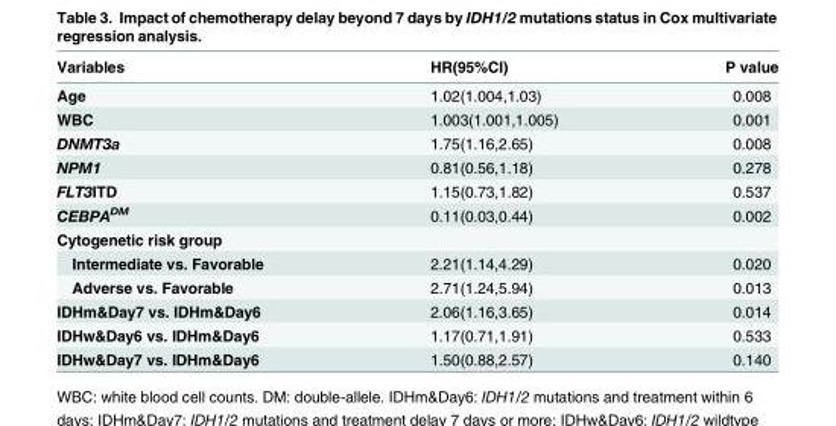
<table><thead><tr><td>Variables</td><td>HR(95%CI)</td><td>P value</td></tr></thead><tbody><tr><td>Age</td><td>1.02(1.004,1.03)</td><td>0.008</td></tr><tr><td>WBC</td><td>1.003(1.001,1.005)</td><td>0.001</td></tr><tr><td>DNMT3a</td><td>1.75(1.16,2.65)</td><td>0.008</td></tr><tr><td>NPM1</td><td>0.81(0.56,1.18)</td><td>0.278</td></tr><tr><td>FLT3ITD</td><td>1.15(0.73,1.82)</td><td>0.537</td></tr><tr><td>CEBPA<sup>DM</sup></td><td>0.11(0.03,0.44)</td><td>0.002</td></tr><tr><td colspan="3">Cytogenetic risk group</td></tr><tr><td>Intermediate vs. Favorable</td><td>2.21(1.14,4.29)</td><td>0.020</td></tr><tr><td>Adverse vs. Favorable</td><td>2.71(1.24,5.94)</td><td>0.013</td></tr><tr><td>IDHm&amp;Day7 vs. IDHm&amp;Day6</td><td>2.06(1.16,3.65)</td><td>0.014</td></tr><tr><td>IDHw&amp;Day6 vs. IDHm&amp;Day6</td><td>1.17(0.71,1.91)</td><td>0.533</td></tr><tr><td>IDHw&amp;Day7 vs. IDHm&amp;Day6</td><td>1.50(0.88,2.57)</td><td>0.140</td></tr></tbody></table>